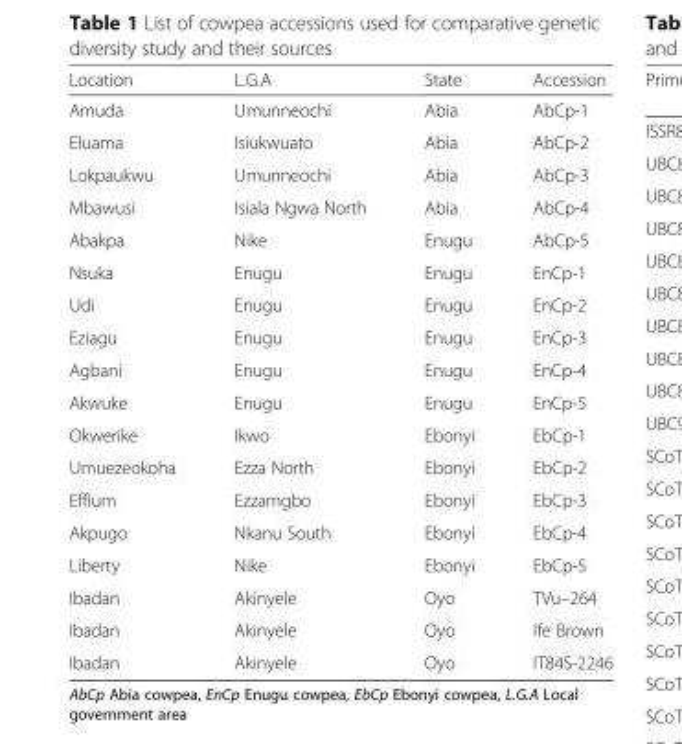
<table><thead><tr><td>Location</td><td>L.G.A</td><td>State</td><td>Accession</td></tr></thead><tbody><tr><td>Amuda</td><td>Umunneochi</td><td>Abia</td><td>AbCp-1</td></tr><tr><td>Eluama</td><td>Isiukwuato</td><td>Abia</td><td>AbCp-2</td></tr><tr><td>Lokpaukwu</td><td>Umunneochi</td><td>Abia</td><td>AbCp-3</td></tr><tr><td>Mbawusi</td><td>Isiala Ngwa North</td><td>Abia</td><td>AbCp-4</td></tr><tr><td>Abakpa</td><td>Nike</td><td>Enugu</td><td>AbCp-5</td></tr><tr><td>Nsuka</td><td>Enugu</td><td>Enugu</td><td>EnCp-1</td></tr><tr><td>Udi</td><td>Enugu</td><td>Enugu</td><td>EnCp-2</td></tr><tr><td>Eziagu</td><td>Enugu</td><td>Enugu</td><td>EnCp-3</td></tr><tr><td>Agbani</td><td>Enugu</td><td>Enugu</td><td>EnCp-4</td></tr><tr><td>Akwuke</td><td>Enugu</td><td>Enugu</td><td>EnCp-5</td></tr><tr><td>Okwerike</td><td>Ikwo</td><td>Ebonyi</td><td>EbCp-1</td></tr><tr><td>Umuezeokoha</td><td>Ezza North</td><td>Ebonyi</td><td>EbCp-2</td></tr><tr><td>Effium</td><td>Ezzamgbo</td><td>Ebonyi</td><td>EbCp-3</td></tr><tr><td>Akpugo</td><td>Nkanu South</td><td>Ebonyi</td><td>EbCp-4</td></tr><tr><td>Liberty</td><td>Nike</td><td>Ebonyi</td><td>EbCp-5</td></tr><tr><td>Ibadan</td><td>Akinyele</td><td>Oyo</td><td>TVu–264</td></tr><tr><td>Ibadan</td><td>Akinyele</td><td>Oyo</td><td>Ife Brown</td></tr><tr><td>Ibadan</td><td>Akinyele</td><td>Oyo</td><td>IT84S-2246</td></tr></tbody></table>